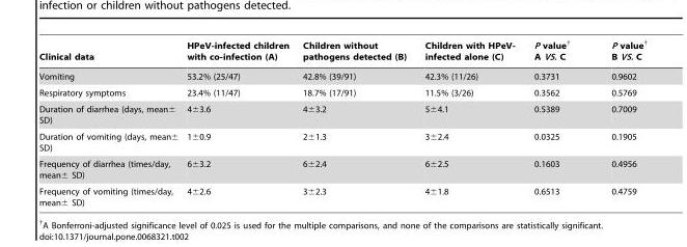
<table><thead><tr><td>Clinical data</td><td>HPeV-infected children with co-infection (A)</td><td>Children without pathogens detected (B)</td><td>Children with HPeV- infected alone (C)</td><td>P value† A VS. C</td><td>P value† B VS. C</td></tr></thead><tbody><tr><td>Vomiting</td><td>53.2% (25/47)</td><td>42.8% (39/91)</td><td>42.3% (11/26)</td><td>0.3731</td><td>0.9602</td></tr><tr><td>Respiratory symptoms</td><td>23.4% (11/47)</td><td>18.7% (17/91)</td><td>11.5% (3/26)</td><td>0.3562</td><td>0.5769</td></tr><tr><td>Duration of diarrhea (days, mean± SD)</td><td>4±3.6</td><td>4±3.2</td><td>5±4.1</td><td>0.5389</td><td>0.7009</td></tr><tr><td>Duration of vomiting (days, mean± SD)</td><td>1±0.9</td><td>2±1.3</td><td>3±2.4</td><td>0.0325</td><td>0.1905</td></tr><tr><td>Frequency of diarrhea (times/day, mean± SD)</td><td>6±3.2</td><td>6±2.4</td><td>6±2.5</td><td>0.1603</td><td>0.4956</td></tr><tr><td>Frequency of vomiting (times/day, mean± SD)</td><td>4±2.6</td><td>3±2.3</td><td>4±1.8</td><td>0.6513</td><td>0.4759</td></tr></tbody></table>